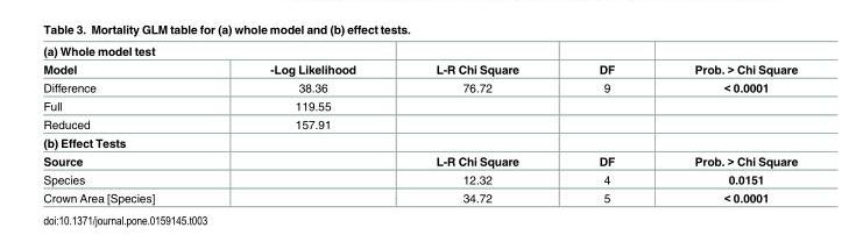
<table><tbody><tr><td colspan="5">(a) Whole model test</td></tr><tr><td>Model</td><td>-Log Likelihood</td><td>L-R Chi Square</td><td>DF</td><td>Prob. &gt; Chi Square</td></tr><tr><td>Difference</td><td>38.36</td><td>76.72</td><td>9</td><td>&lt; 0.0001</td></tr><tr><td>Full</td><td>119.55</td><td></td><td></td><td></td></tr><tr><td>Reduced</td><td>157.91</td><td></td><td></td><td></td></tr><tr><td colspan="5">(b) Effect Tests</td></tr><tr><td>Source</td><td></td><td>L-R Chi Square</td><td>DF</td><td>Prob. &gt; Chi Square</td></tr><tr><td>Species</td><td></td><td>12.32</td><td>4</td><td>0.0151</td></tr><tr><td>Crown Area [Species]</td><td></td><td>34.72</td><td>5</td><td>&lt; 0.0001</td></tr></tbody></table>